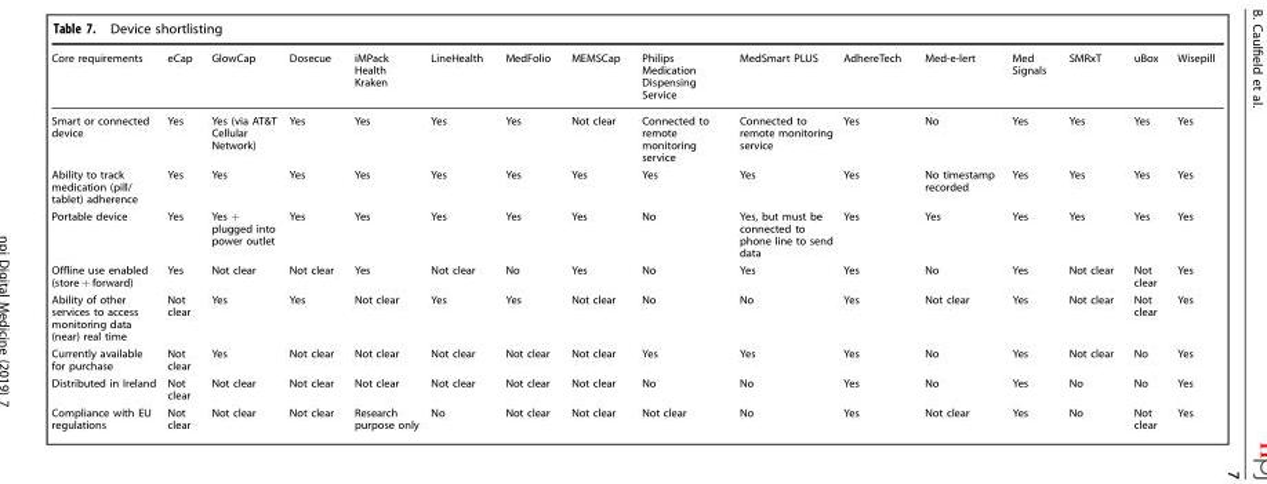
<table><thead><tr><td>Core requirements</td><td>eCap</td><td>GlowCap</td><td>Dosecue</td><td>iMPack Health Kraken</td><td>LineHealth</td><td>MedFolio</td><td>MEMSCap</td><td>Philips Medication Dispensing Service</td><td>MedSmart PLUS</td><td>AdhereTech</td><td>Med-e-lert</td><td>Med Signals</td><td>SMRxT</td><td>uBox</td><td>Wisepill</td></tr></thead><tbody><tr><td>Smart or connected device</td><td>Yes</td><td>Yes (via AT&amp;T Cellular Network)</td><td>Yes</td><td>Yes</td><td>Yes</td><td>Yes</td><td>Not clear</td><td>Connected to remote monitoring service</td><td>Connected to remote monitoring service</td><td>Yes</td><td>No</td><td>Yes</td><td>Yes</td><td>Yes</td><td>Yes</td></tr><tr><td>Ability to track medication (pill/ tablet) adherence</td><td>Yes</td><td>Yes</td><td>Yes</td><td>Yes</td><td>Yes</td><td>Yes</td><td>Yes</td><td>Yes</td><td>Yes</td><td>Yes</td><td>No timestamp recorded</td><td>Yes</td><td>Yes</td><td>Yes</td><td>Yes</td></tr><tr><td>Portable device</td><td>Yes</td><td>Yes + plugged into power outlet</td><td>Yes</td><td>Yes</td><td>Yes</td><td>Yes</td><td>Yes</td><td>No</td><td>Yes, but must be connected to phone line to send data</td><td>Yes</td><td>Yes</td><td>Yes</td><td>Yes</td><td>Yes</td><td>Yes</td></tr><tr><td>Offline use enabled (store + forward)</td><td>Yes</td><td>Not clear</td><td>Not clear</td><td>Yes</td><td>Not clear</td><td>No</td><td>Yes</td><td>No</td><td>Yes</td><td>Yes</td><td>No</td><td>Yes</td><td>Not clear</td><td>Not clear</td><td>Yes</td></tr><tr><td>Ability of other services to access monitoring data (near) real time</td><td>Not clear</td><td>Yes</td><td>Yes</td><td>Not clear</td><td>Yes</td><td>Yes</td><td>Not clear</td><td>No</td><td>No</td><td>Yes</td><td>Not clear</td><td>Yes</td><td>Not clear</td><td>Not clear</td><td>Yes</td></tr><tr><td>Currently available for purchase</td><td>Not clear</td><td>Yes</td><td>Not clear</td><td>Not clear</td><td>Not clear</td><td>Not clear</td><td>Not clear</td><td>Yes</td><td>Yes</td><td>Yes</td><td>No</td><td>Yes</td><td>Not clear</td><td>No</td><td>Yes</td></tr><tr><td>Distributed in Ireland</td><td>Not clear</td><td>Not clear</td><td>Not clear</td><td>Not clear</td><td>Not clear</td><td>Not clear</td><td>Not clear</td><td>No</td><td>No</td><td>Yes</td><td>No</td><td>Yes</td><td>No</td><td>No</td><td>Yes</td></tr><tr><td>Compliance with EU regulations</td><td>Not clear</td><td>Not clear</td><td>Not clear</td><td>Research purpose only</td><td>No</td><td>Not clear</td><td>Not clear</td><td>Not clear</td><td>No</td><td>Yes</td><td>Not clear</td><td>Yes</td><td>No</td><td>Not clear</td><td>Yes</td></tr></tbody></table>